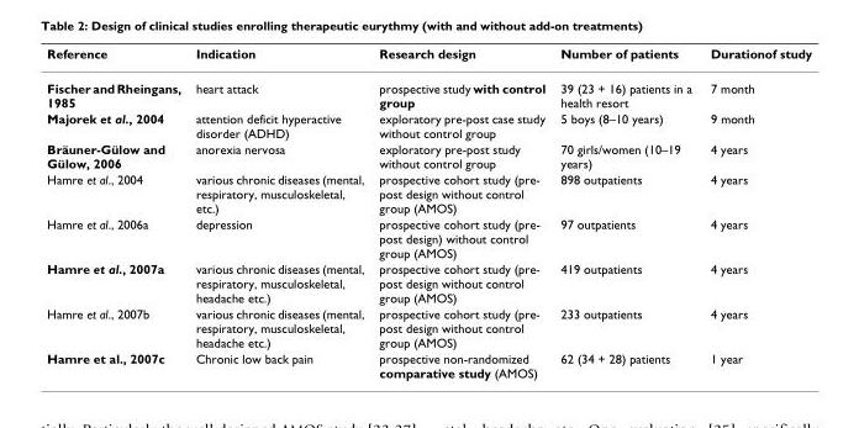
<table><thead><tr><td>Reference</td><td>Indication</td><td>Research design</td><td>Number of patients</td><td>Durationof study</td></tr></thead><tbody><tr><td>Fischer and Rheingans, 1985</td><td>heart attack</td><td>prospective study with control group</td><td>39 (23 + 16) patients in a health resort</td><td>7 month</td></tr><tr><td>Majorek et al., 2004</td><td>attention deficit hyperactive disorder (ADHD)</td><td>exploratory pre-post case study without control group</td><td>5 boys (8–10 years)</td><td>9 month</td></tr><tr><td>Bräuner-Gülow and Gülow, 2006</td><td>anorexia nervosa</td><td>exploratory pre-post study without control group</td><td>70 girls/women (10–19 years)</td><td>4 years</td></tr><tr><td>Hamre et al., 2004</td><td>various chronic diseases (mental, respiratory, musculoskeletal, etc.)</td><td>prospective cohort study (pre- post design without control group (AMOS)</td><td>898 outpatients</td><td>4 years</td></tr><tr><td>Hamre et al., 2006a</td><td>depression</td><td>prospective cohort study (pre- post design) without control group (AMOS)</td><td>97 outpatients</td><td>4 years</td></tr><tr><td>Hamre et al., 2007a</td><td>various chronic diseases (mental, respiratory, musculoskeletal, headache etc.)</td><td>prospective cohort study (pre- post design without control group (AMOS)</td><td>419 outpatients</td><td>4 years</td></tr><tr><td>Hamre et al., 2007b</td><td>various chronic diseases (mental, respiratory, musculoskeletal, headache etc.)</td><td>prospective cohort study (pre- post design without control group (AMOS)</td><td>233 outpatients</td><td>4 years</td></tr><tr><td>Hamre et al., 2007c</td><td>Chronic low back pain</td><td>prospective non-randomized comparative study (AMOS)</td><td>62 (34 + 28) patients</td><td>1 year</td></tr></tbody></table>